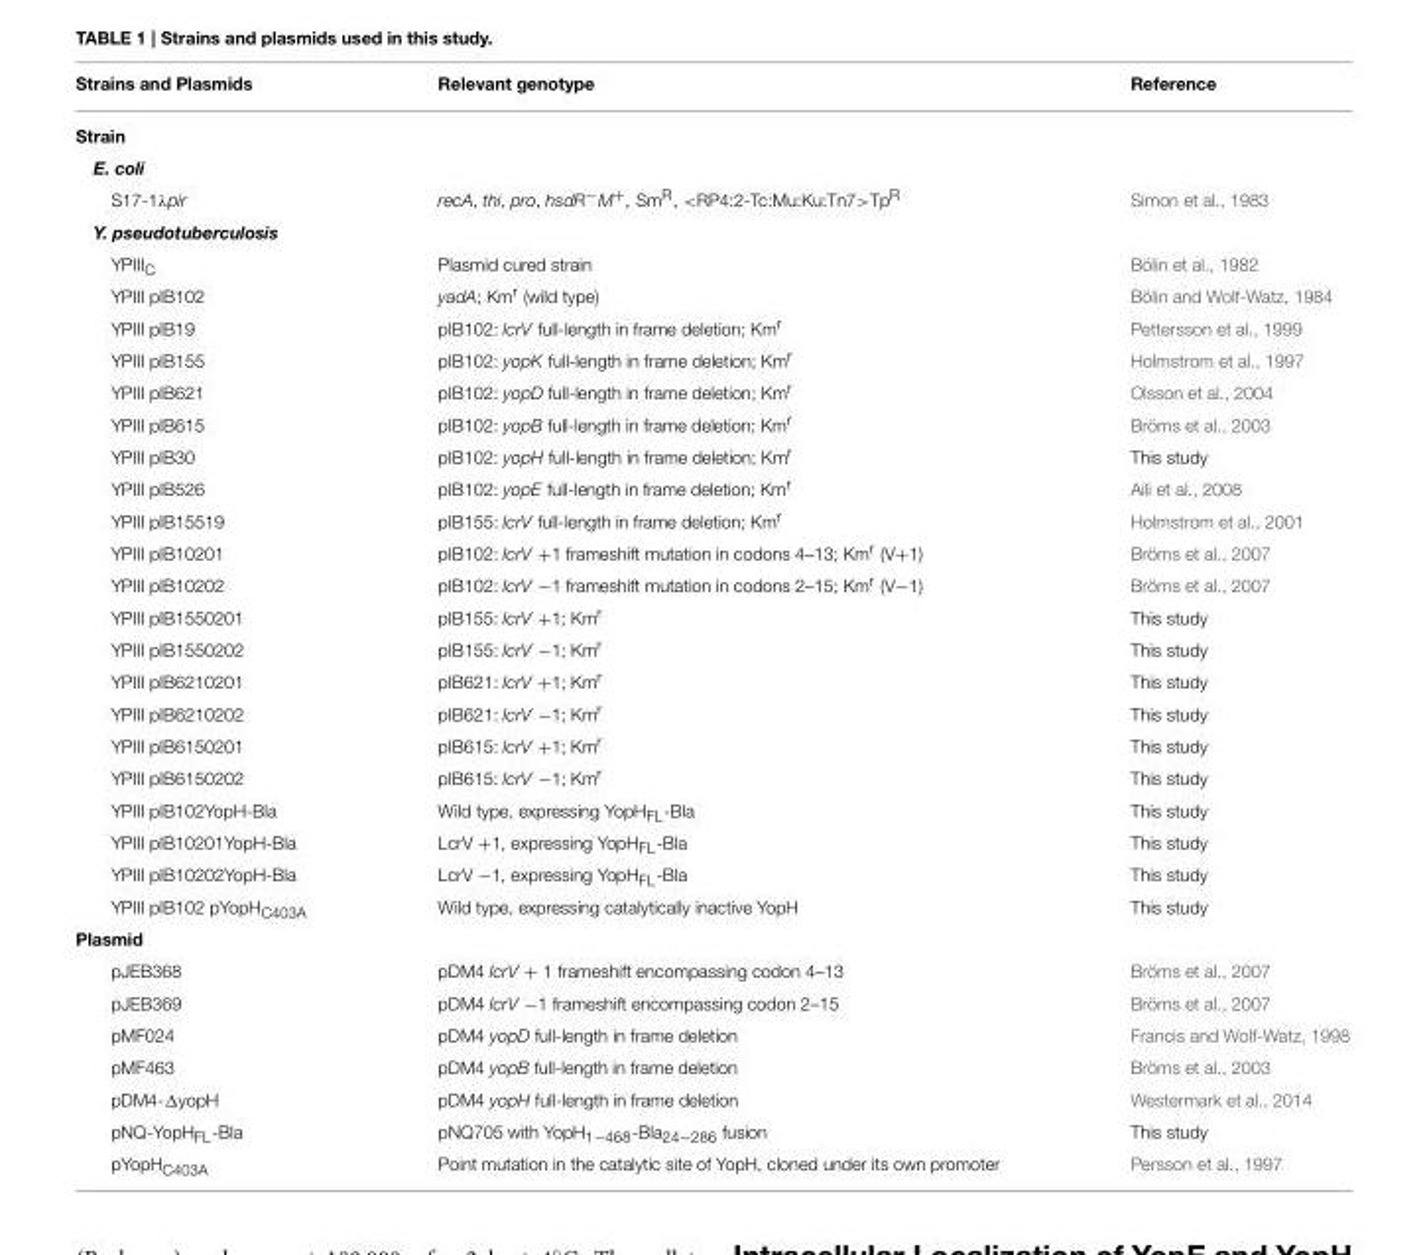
<table><thead><tr><td>Strains and Plasmids</td><td>Relevant genotype</td><td>Reference</td></tr></thead><tbody><tr><td colspan="3">Strain</td></tr><tr><td colspan="3">E. coli</td></tr><tr><td>S17-1λpir</td><td>recA, thi, pro, hsdR<sup>−</sup>M<sup>+</sup>, Sm<sup>R</sup>, &lt;RP4:2-Tc:Mu:Ku:Tn7&gt;Tp<sup>R</sup></td><td>Simon et al., 1983</td></tr><tr><td colspan="3">Y. pseudotuberculosis</td></tr><tr><td>YPIII<sub>C</sub></td><td>Plasmid cured strain</td><td>Bölin et al., 1982</td></tr><tr><td>YPIII pIB102</td><td>yadA; Km<sup>r</sup> (wild type)</td><td>Bölin and Wolf-Watz, 1984</td></tr><tr><td>YPIII pIB19</td><td>pIB102: lcrV full-length in frame deletion; Km<sup>r</sup></td><td>Pettersson et al., 1999</td></tr><tr><td>YPIII pIB155</td><td>pIB102: yopK full-length in frame deletion; Km<sup>r</sup></td><td>Holmstrom et al., 1997</td></tr><tr><td>YPIII pIB621</td><td>pIB102: yopD full-length in frame deletion; Km<sup>r</sup></td><td>Olsson et al., 2004</td></tr><tr><td>YPIII pIB615</td><td>pIB102: yopB full-length in frame deletion; Km<sup>r</sup></td><td>Bröms et al., 2003</td></tr><tr><td>YPIII pIB30</td><td>pIB102: yopH full-length in frame deletion; Km<sup>r</sup></td><td>This study</td></tr><tr><td>YPIII pIB526</td><td>pIB102: yopE full-length in frame deletion; Km<sup>r</sup></td><td>Aili et al., 2008</td></tr><tr><td>YPIII pIB15519</td><td>pIB155: lcrV full-length in frame deletion; Km<sup>r</sup></td><td>Holmstrom et al., 2001</td></tr><tr><td>YPIII pIB10201</td><td>pIB102: lcrV +1 frameshift mutation in codons 4–13; Km<sup>r</sup> (V+1)</td><td>Bröms et al., 2007</td></tr><tr><td>YPIII pIB10202</td><td>pIB102: lcrV −1 frameshift mutation in codons 2–15; Km<sup>r</sup> (V−1)</td><td>Bröms et al., 2007</td></tr><tr><td>YPIII pIB1550201</td><td>pIB155: lcrV +1; Km<sup>r</sup></td><td>This study</td></tr><tr><td>YPIII pIB1550202</td><td>pIB155: lcrV −1; Km<sup>r</sup></td><td>This study</td></tr><tr><td>YPIII pIB6210201</td><td>pIB621: lcrV +1; Km<sup>r</sup></td><td>This study</td></tr><tr><td>YPIII pIB6210202</td><td>pIB621: lcrV −1; Km<sup>r</sup></td><td>This study</td></tr><tr><td>YPIII pIB6150201</td><td>pIB615: lcrV +1; Km<sup>r</sup></td><td>This study</td></tr><tr><td>YPIII pIB6150202</td><td>pIB615: lcrV −1; Km<sup>r</sup></td><td>This study</td></tr><tr><td>YPIII pIB102YopH-Bla</td><td>Wild type, expressing YopH<sub>FL</sub>-Bla</td><td>This study</td></tr><tr><td>YPIII pIB10201YopH-Bla</td><td>LcrV +1, expressing YopH<sub>FL</sub>-Bla</td><td>This study</td></tr><tr><td>YPIII pIB10202YopH-Bla</td><td>LcrV −1, expressing YopH<sub>FL</sub>-Bla</td><td>This study</td></tr><tr><td>YPIII pIB102 pYopH<sub>C403A</sub></td><td>Wild type, expressing catalytically inactive YopH</td><td>This study</td></tr><tr><td colspan="3">Plasmid</td></tr><tr><td>pJEB368</td><td>pDM4 lcrV + 1 frameshift encompassing codon 4–13</td><td>Bröms et al., 2007</td></tr><tr><td>pJEB369</td><td>pDM4 lcrV −1 frameshift encompassing codon 2–15</td><td>Bröms et al., 2007</td></tr><tr><td>pMF024</td><td>pDM4 yopD full-length in frame deletion</td><td>Francis and Wolf-Watz, 1998</td></tr><tr><td>pMF463</td><td>pDM4 yopB full-length in frame deletion</td><td>Bröms et al., 2003</td></tr><tr><td>pDM4-ΔyopH</td><td>pDM4 yopH full-length in frame deletion</td><td>Westermark et al., 2014</td></tr><tr><td>pNQ-YopH<sub>FL</sub>-Bla</td><td>pNQ705 with YopH<sub>1−468</sub>-Bla<sub>24−286</sub> fusion</td><td>This study</td></tr><tr><td>pYopH<sub>C403A</sub></td><td>Point mutation in the catalytic site of YopH, cloned under its own promoter</td><td>Persson et al., 1997</td></tr></tbody></table>